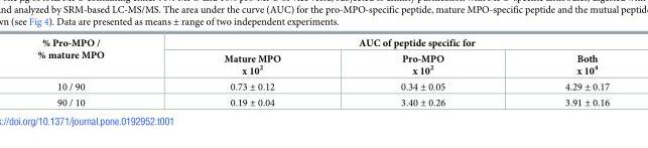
<table><thead><tr><td rowspan="2">% Pro-MPO / % mature MPO</td><td colspan="3">AUC of peptide specific for</td></tr><tr><td>Mature MPO x 10<sup>2</sup></td><td>Pro-MPO x 10<sup>2</sup></td><td>Both x 10<sup>4</sup></td></tr></thead><tbody><tr><td>10 / 90</td><td>0.73 ± 0.12</td><td>0.34 ± 0.05</td><td>4.29 ± 0.17</td></tr><tr><td>90 / 10</td><td>0.19 ± 0.04</td><td>3.40 ± 0.26</td><td>3.91 ± 0.16</td></tr></tbody></table>